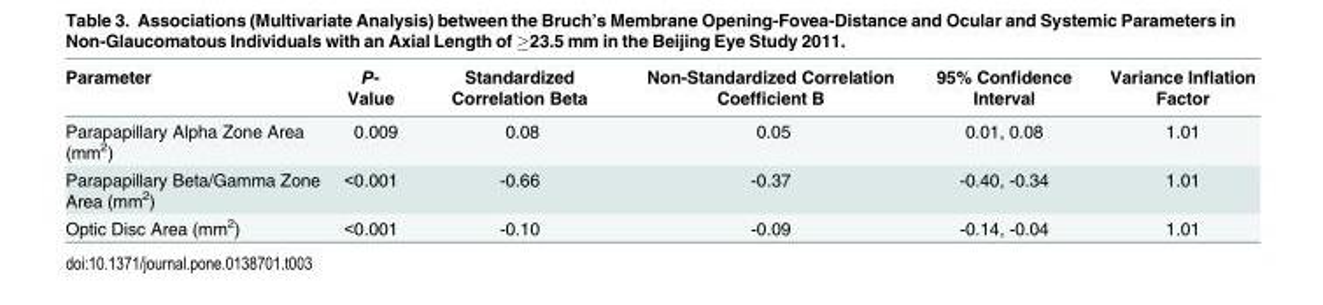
<table><thead><tr><td>Parameter</td><td>P- Value</td><td>Standardized Correlation Beta</td><td>Non-Standardized Correlation Coefficient B</td><td>95% Confidence Interval</td><td>Variance Inflation Factor</td></tr></thead><tbody><tr><td>Parapapillary Alpha Zone Area (mm<sup>2</sup>)</td><td>0.009</td><td>0.08</td><td>0.05</td><td>0.01, 0.08</td><td>1.01</td></tr><tr><td>Parapapillary Beta/Gamma Zone Area (mm<sup>2</sup>)</td><td>&lt;0.001</td><td>-0.66</td><td>-0.37</td><td>-0.40, -0.34</td><td>1.01</td></tr><tr><td>Optic Disc Area (mm<sup>2</sup>)</td><td>&lt;0.001</td><td>-0.10</td><td>-0.09</td><td>-0.14, -0.04</td><td>1.01</td></tr></tbody></table>